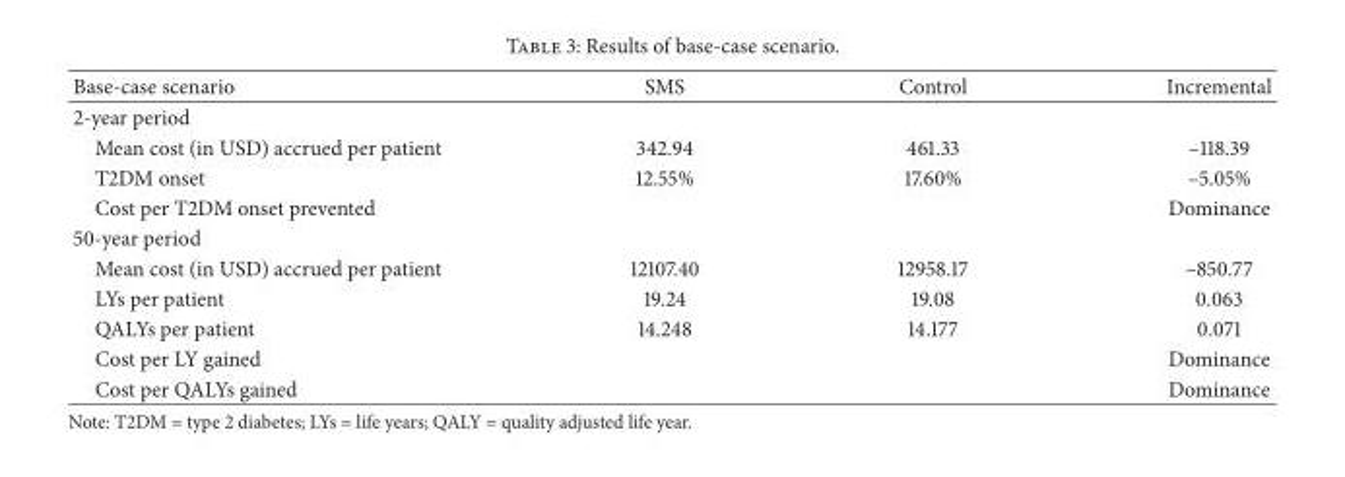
<table><thead><tr><td>Base-case scenario</td><td>SMS</td><td>Control</td><td>Incremental</td></tr></thead><tbody><tr><td colspan="4">2-year period</td></tr><tr><td>Mean cost (in USD) accrued per patient</td><td>342.94</td><td>461.33</td><td>–118.39</td></tr><tr><td>T2DM onset</td><td>12.55%</td><td>17.60%</td><td>–5.05%</td></tr><tr><td>Cost per T2DM onset prevented</td><td></td><td></td><td>Dominance</td></tr><tr><td colspan="4">50-year period</td></tr><tr><td>Mean cost (in USD) accrued per patient</td><td>12107.40</td><td>12958.17</td><td>–850.77</td></tr><tr><td>LYs per patient</td><td>19.24</td><td>19.08</td><td>0.063</td></tr><tr><td>QALYs per patient</td><td>14.248</td><td>14.177</td><td>0.071</td></tr><tr><td>Cost per LY gained</td><td></td><td></td><td>Dominance</td></tr><tr><td>Cost per QALYs gained</td><td></td><td></td><td>Dominance</td></tr></tbody></table>